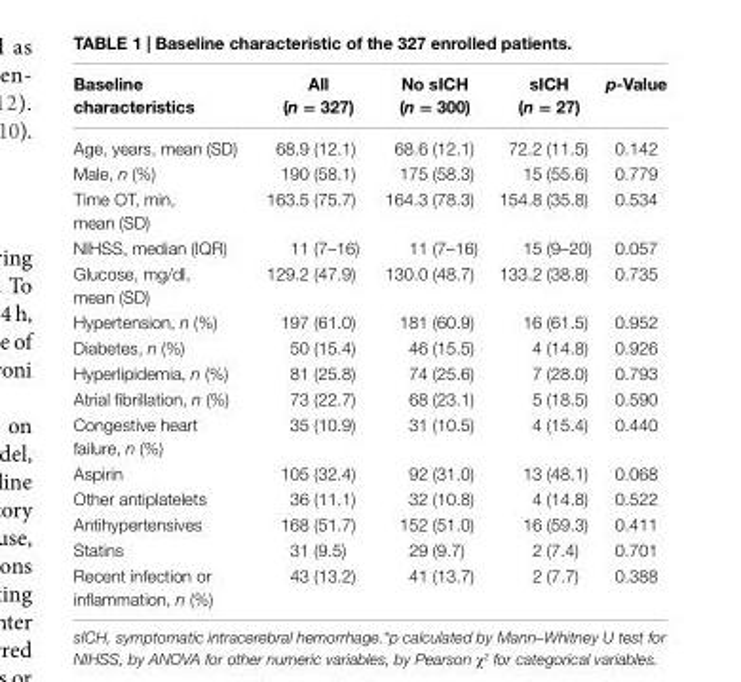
<table><thead><tr><td>Baseline characteristics</td><td>all (n = 327)</td><td>no sich (n = 300)</td><td>sich (n = 27)</td><td>p-Value</td></tr></thead><tbody><tr><td>Age, years, mean (SD)</td><td>68.9 (12.1)</td><td>68.6 (12.1)</td><td>72.2 (11.5)</td><td>0.142</td></tr><tr><td>Male, n (%)</td><td>190 (58.1)</td><td>175 (58.3)</td><td>15 (55.6)</td><td>0.779</td></tr><tr><td>Time OT, min, mean (SD)</td><td>163.5 (75.7)</td><td>164.3 (78.3)</td><td>154.8 (35.8)</td><td>0.534</td></tr><tr><td>NIHSS, median (IQR)</td><td>11 (7–16)</td><td>11 (7–16)</td><td>15 (9–20)</td><td>0.057</td></tr><tr><td>Glucose, mg/dl, mean (SD)</td><td>129.2 (47.9)</td><td>130.0 (48.7)</td><td>133.2 (38.8)</td><td>0.735</td></tr><tr><td>Hypertension, n (%)</td><td>197 (61.0)</td><td>181 (60.9)</td><td>16 (61.5)</td><td>0.952</td></tr><tr><td>Diabetes, n (%)</td><td>50 (15.4)</td><td>46 (15.5)</td><td>4 (14.8)</td><td>0.926</td></tr><tr><td>Hyperlipidemia, n (%)</td><td>81 (25.8)</td><td>74 (25.6)</td><td>7 (28.0)</td><td>0.793</td></tr><tr><td>Atrial fibrillation, n (%)</td><td>73 (22.7)</td><td>68 (23.1)</td><td>5 (18.5)</td><td>0.590</td></tr><tr><td>Congestive heart failure, n (%)</td><td>35 (10.9)</td><td>31 (10.5)</td><td>4 (15.4)</td><td>0.440</td></tr><tr><td>Aspirin</td><td>105 (32.4)</td><td>92 (31.0)</td><td>13 (48.1)</td><td>0.068</td></tr><tr><td>Other antiplatelets</td><td>36 (11.1)</td><td>32 (10.8)</td><td>4 (14.8)</td><td>0.522</td></tr><tr><td>Antihypertensives</td><td>168 (51.7)</td><td>152 (51.0)</td><td>16 (59.3)</td><td>0.411</td></tr><tr><td>Statins</td><td>31 (9.5)</td><td>29 (9.7)</td><td>2 (7.4)</td><td>0.701</td></tr><tr><td>Recent infection or inflammation, n (%)</td><td>43 (13.2)</td><td>41 (13.7)</td><td>2 (7.7)</td><td>0.388</td></tr></tbody></table>